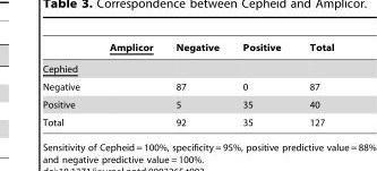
<table><thead><tr><td></td><td>Amplicor</td><td>Negative</td><td>Positive</td><td>Total</td></tr></thead><tbody><tr><td colspan="5">Cephied</td></tr><tr><td>Negative</td><td></td><td>87</td><td>0</td><td>87</td></tr><tr><td>Positive</td><td></td><td>5</td><td>35</td><td>40</td></tr><tr><td>Total</td><td></td><td>92</td><td>35</td><td>127</td></tr></tbody></table>